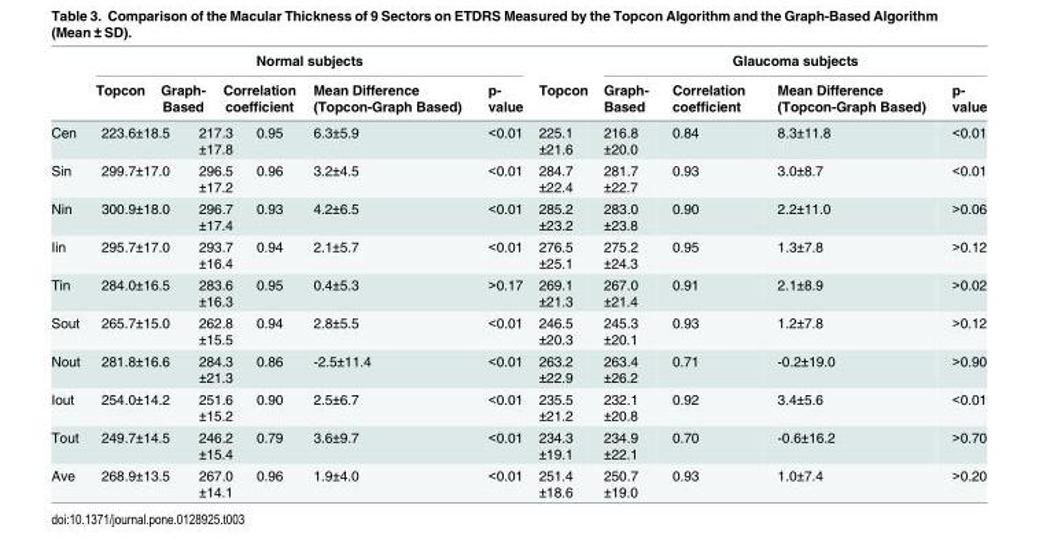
<table><thead><tr><td rowspan="2"></td><td colspan="7">Normal subjects</td><td rowspan="2">Topcon</td><td colspan="4">Glaucoma subjects</td></tr><tr><td>Topcon</td><td colspan="2">Graph- Based</td><td colspan="2">Correlation coefficient</td><td>Mean Difference (Topcon-Graph Based)</td><td>p- value</td><td>Graph- Based</td><td>Correlation coefficient</td><td>Mean Difference (Topcon-Graph Based)</td><td>p- value</td></tr></thead><tbody><tr><td>Cen</td><td colspan="2">223.6±18.5</td><td colspan="2">217.3 ±17.8</td><td>0.95</td><td>6.3±5.9</td><td>&lt;0.01</td><td>225.1 ±21.6</td><td>216.8 ±20.0</td><td>0.84</td><td>8.3±11.8</td><td>&lt;0.01</td></tr><tr><td>Sin</td><td colspan="2">299.7±17.0</td><td colspan="2">296.5 ±17.2</td><td>0.96</td><td>3.2±4.5</td><td>&lt;0.01</td><td>284.7 ±22.4</td><td>281.7 ±22.7</td><td>0.93</td><td>3.0±8.7</td><td>&lt;0.01</td></tr><tr><td>Nin</td><td colspan="2">300.9±18.0</td><td colspan="2">296.7 ±17.4</td><td>0.93</td><td>4.2±6.5</td><td>&lt;0.01</td><td>285.2 ±23.2</td><td>283.0 ±23.8</td><td>0.90</td><td>2.2±11.0</td><td>&gt;0.06</td></tr><tr><td>Iin</td><td colspan="2">295.7±17.0</td><td colspan="2">293.7 ±16.4</td><td>0.94</td><td>2.1±5.7</td><td>&lt;0.01</td><td>276.5 ±25.1</td><td>275.2 ±24.3</td><td>0.95</td><td>1.3±7.8</td><td>&gt;0.12</td></tr><tr><td>Tin</td><td colspan="2">284.0±16.5</td><td colspan="2">283.6 ±16.3</td><td>0.95</td><td>0.4±5.3</td><td>&gt;0.17</td><td>269.1 ±21.3</td><td>267.0 ±21.4</td><td>0.91</td><td>2.1±8.9</td><td>&gt;0.02</td></tr><tr><td>Sout</td><td colspan="2">265.7±15.0</td><td colspan="2">262.8 ±15.5</td><td>0.94</td><td>2.8±5.5</td><td>&lt;0.01</td><td>246.5 ±20.3</td><td>245.3 ±20.1</td><td>0.93</td><td>1.2±7.8</td><td>&gt;0.12</td></tr><tr><td>Nout</td><td colspan="2">281.8±16.6</td><td colspan="2">284.3 ±21.3</td><td>0.86</td><td>-2.5±11.4</td><td>&lt;0.01</td><td>263.2 ±22.9</td><td>263.4 ±26.2</td><td>0.71</td><td>-0.2±19.0</td><td>&gt;0.90</td></tr><tr><td>Iout</td><td colspan="2">254.0±14.2</td><td colspan="2">251.6 ±15.2</td><td>0.90</td><td>2.5±6.7</td><td>&lt;0.01</td><td>235.5 ±21.2</td><td>232.1 ±20.8</td><td>0.92</td><td>3.4±5.6</td><td>&lt;0.01</td></tr><tr><td>Tout</td><td colspan="2">249.7±14.5</td><td colspan="2">246.2 ±15.4</td><td>0.79</td><td>3.6±9.7</td><td>&lt;0.01</td><td>234.3 ±19.1</td><td>234.9 ±22.1</td><td>0.70</td><td>-0.6±16.2</td><td>&gt;0.70</td></tr><tr><td>Ave</td><td colspan="2">268.9±13.5</td><td colspan="2">267.0 ±14.1</td><td>0.96</td><td>1.9±4.0</td><td>&lt;0.01</td><td>251.4 ±18.6</td><td>250.7 ±19.0</td><td>0.93</td><td>1.0±7.4</td><td>&gt;0.20</td></tr></tbody></table>